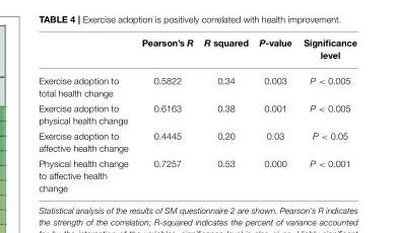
<table><thead><tr><td></td><td>Pearson’s R</td><td>R squared</td><td>P-value</td><td>Significance level</td></tr></thead><tbody><tr><td>Exercise adoption to total health change</td><td>0.5822</td><td>0.34</td><td>0.003</td><td>P &lt; 0.005</td></tr><tr><td>Exercise adoption to physical health change</td><td>0.6163</td><td>0.38</td><td>0.001</td><td>P &lt; 0.005</td></tr><tr><td>Exercise adoption to affective health change</td><td>0.4445</td><td>0.20</td><td>0.03</td><td>P &lt; 0.05</td></tr><tr><td>Physical health change to affective health change</td><td>0.7257</td><td>0.53</td><td>0.000</td><td>P &lt; 0.001</td></tr></tbody></table>